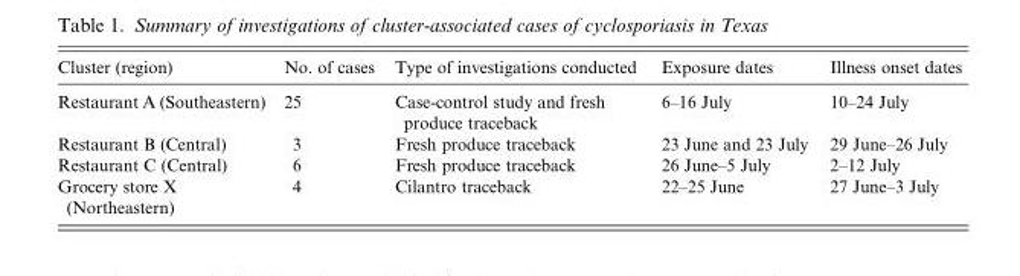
<table><thead><tr><td>Cluster (region)</td><td>No. of cases</td><td>Type of investigations conducted</td><td>Exposure dates</td><td>Illness onset dates</td></tr></thead><tbody><tr><td>Restaurant A (Southeastern)</td><td>25</td><td>Case-control study and fresh produce traceback</td><td>6–16 July</td><td>10–24 July</td></tr><tr><td>Restaurant B (Central)</td><td>3</td><td>Fresh produce traceback</td><td>23 June and 23 July</td><td>29 June–26 July</td></tr><tr><td>Restaurant C (Central)</td><td>6</td><td>Fresh produce traceback</td><td>26 June–5 July</td><td>2–12 July</td></tr><tr><td>Grocery store X (Northeastern)</td><td>4</td><td>Cilantro traceback</td><td>22–25 June</td><td>27 June–3 July</td></tr></tbody></table>